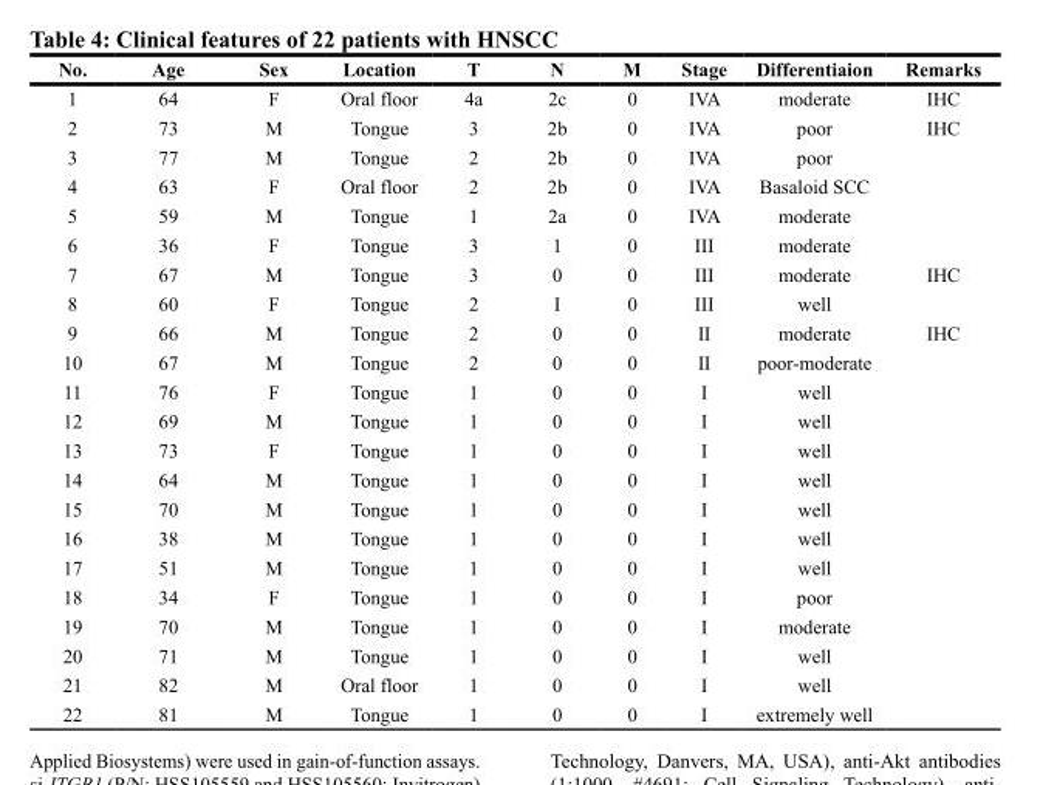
<table><thead><tr><td>No.</td><td>Age</td><td>Sex</td><td>Location</td><td>T</td><td>N</td><td>M</td><td>Stage</td><td>Differentiaion</td><td>Remarks</td></tr></thead><tbody><tr><td>1</td><td>64</td><td>F</td><td>Oral floor</td><td>4a</td><td>2c</td><td>0</td><td>IVA</td><td>moderate</td><td>IHC</td></tr><tr><td>2</td><td>73</td><td>M</td><td>Tongue</td><td>3</td><td>2b</td><td>0</td><td>IVA</td><td>poor</td><td>IHC</td></tr><tr><td>3</td><td>77</td><td>M</td><td>Tongue</td><td>2</td><td>2b</td><td>0</td><td>IVA</td><td>poor</td><td></td></tr><tr><td>4</td><td>63</td><td>F</td><td>Oral floor</td><td>2</td><td>2b</td><td>0</td><td>IVA</td><td>Basaloid SCC</td><td></td></tr><tr><td>5</td><td>59</td><td>M</td><td>Tongue</td><td>1</td><td>2a</td><td>0</td><td>IVA</td><td>moderate</td><td></td></tr><tr><td>6</td><td>36</td><td>F</td><td>Tongue</td><td>3</td><td>1</td><td>0</td><td>III</td><td>moderate</td><td></td></tr><tr><td>7</td><td>67</td><td>M</td><td>Tongue</td><td>3</td><td>0</td><td>0</td><td>III</td><td>moderate</td><td>IHC</td></tr><tr><td>8</td><td>60</td><td>F</td><td>Tongue</td><td>2</td><td>I</td><td>0</td><td>III</td><td>well</td><td></td></tr><tr><td>9</td><td>66</td><td>M</td><td>Tongue</td><td>2</td><td>0</td><td>0</td><td>II</td><td>moderate</td><td>IHC</td></tr><tr><td>10</td><td>67</td><td>M</td><td>Tongue</td><td>2</td><td>0</td><td>0</td><td>II</td><td>poor-moderate</td><td></td></tr><tr><td>11</td><td>76</td><td>F</td><td>Tongue</td><td>1</td><td>0</td><td>0</td><td>I</td><td>well</td><td></td></tr><tr><td>12</td><td>69</td><td>M</td><td>Tongue</td><td>1</td><td>0</td><td>0</td><td>I</td><td>well</td><td></td></tr><tr><td>13</td><td>73</td><td>F</td><td>Tongue</td><td>1</td><td>0</td><td>0</td><td>I</td><td>well</td><td></td></tr><tr><td>14</td><td>64</td><td>M</td><td>Tongue</td><td>1</td><td>0</td><td>0</td><td>I</td><td>well</td><td></td></tr><tr><td>15</td><td>70</td><td>M</td><td>Tongue</td><td>1</td><td>0</td><td>0</td><td>I</td><td>well</td><td></td></tr><tr><td>16</td><td>38</td><td>M</td><td>Tongue</td><td>1</td><td>0</td><td>0</td><td>I</td><td>well</td><td></td></tr><tr><td>17</td><td>51</td><td>M</td><td>Tongue</td><td>1</td><td>0</td><td>0</td><td>I</td><td>well</td><td></td></tr><tr><td>18</td><td>34</td><td>F</td><td>Tongue</td><td>1</td><td>0</td><td>0</td><td>I</td><td>poor</td><td></td></tr><tr><td>19</td><td>70</td><td>M</td><td>Tongue</td><td>1</td><td>0</td><td>0</td><td>I</td><td>moderate</td><td></td></tr><tr><td>20</td><td>71</td><td>M</td><td>Tongue</td><td>1</td><td>0</td><td>0</td><td>I</td><td>well</td><td></td></tr><tr><td>21</td><td>82</td><td>M</td><td>Oral floor</td><td>1</td><td>0</td><td>0</td><td>I</td><td>well</td><td></td></tr><tr><td>22</td><td>81</td><td>M</td><td>Tongue</td><td>1</td><td>0</td><td>0</td><td>I</td><td>extremely well</td><td></td></tr></tbody></table>